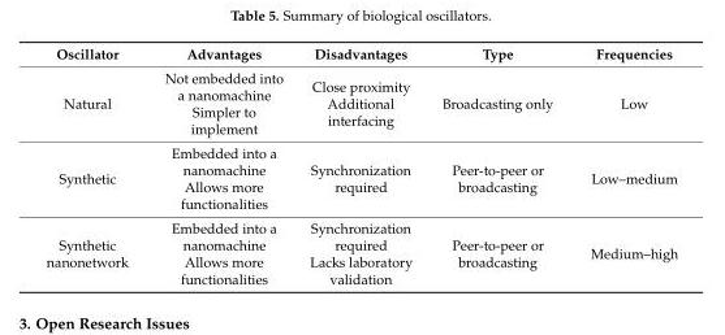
<table><thead><tr><td>Oscillator</td><td>Advantages</td><td>Disadvantages</td><td>Type</td><td>Frequencies</td></tr></thead><tbody><tr><td>Natural</td><td>Not embedded into a nanomachine Simpler to implement</td><td>Close proximity Additional interfacing</td><td>Broadcasting only</td><td>Low</td></tr><tr><td>Synthetic</td><td>Embedded into a nanomachine Allows more functionalities</td><td>Synchronization required</td><td>Peer-to-peer or broadcasting</td><td>Low–medium</td></tr><tr><td>Synthetic nanonetwork</td><td>Embedded into a nanomachine Allows more functionalities</td><td>Synchronization required Lacks laboratory validation</td><td>Peer-to-peer or broadcasting</td><td>Medium–high</td></tr></tbody></table>